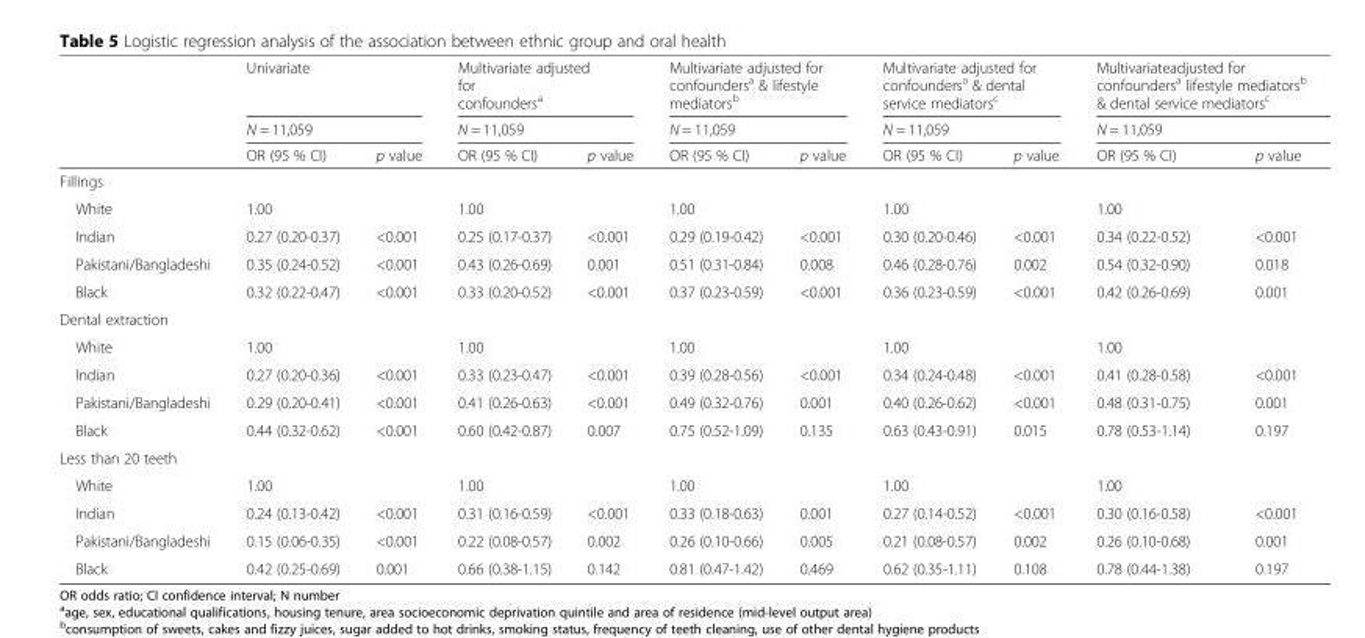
<table><thead><tr><td rowspan="3"></td><td rowspan="2" colspan="2">Univariate N = 11,059</td><td rowspan="2" colspan="2">Multivariate adjusted for confounders<sup>a</sup> N = 11,059</td><td rowspan="2" colspan="2">Multivariate adjusted for confounders<sup>a</sup> &amp; lifestyle mediators<sup>b</sup> N = 11,059</td><td rowspan="2" colspan="2">Multivariate adjusted for confounders<sup>a</sup> &amp; dental service mediators<sup>c</sup> N = 11,059</td><td rowspan="2" colspan="2">Multivariateadjusted for confounders<sup>a</sup> lifestyle mediators<sup>b</sup> &amp; dental service mediators<sup>c</sup> N = 11,059</td></tr><tr></tr><tr><td>OR (95 % CI)</td><td>p value</td><td>OR (95 % CI)</td><td>p value</td><td>OR (95 % CI)</td><td>p value</td><td>OR (95 % CI)</td><td>p value</td><td>OR (95 % CI)</td><td>p value</td></tr></thead><tbody><tr><td colspan="11">Fillings</td></tr><tr><td>White</td><td>1.00</td><td></td><td>1.00</td><td></td><td>1.00</td><td></td><td>1.00</td><td></td><td>1.00</td><td></td></tr><tr><td>Indian</td><td>0.27 (0.20-0.37)</td><td>&lt;0.001</td><td>0.25 (0.17-0.37)</td><td>&lt;0.001</td><td>0.29 (0.19-0.42)</td><td>&lt;0.001</td><td>0.30 (0.20-0.46)</td><td>&lt;0.001</td><td>0.34 (0.22-0.52)</td><td>&lt;0.001</td></tr><tr><td>Pakistani/Bangladeshi</td><td>0.35 (0.24-0.52)</td><td>&lt;0.001</td><td>0.43 (0.26-0.69)</td><td>0.001</td><td>0.51 (0.31-0.84)</td><td>0.008</td><td>0.46 (0.28-0.76)</td><td>0.002</td><td>0.54 (0.32-0.90)</td><td>0.018</td></tr><tr><td>Black</td><td>0.32 (0.22-0.47)</td><td>&lt;0.001</td><td>0.33 (0.20-0.52)</td><td>&lt;0.001</td><td>0.37 (0.23-0.59)</td><td>&lt;0.001</td><td>0.36 (0.23-0.59)</td><td>&lt;0.001</td><td>0.42 (0.26-0.69)</td><td>0.001</td></tr><tr><td colspan="11">Dental extraction</td></tr><tr><td>White</td><td>1.00</td><td></td><td>1.00</td><td></td><td>1.00</td><td></td><td>1.00</td><td></td><td>1.00</td><td></td></tr><tr><td>Indian</td><td>0.27 (0.20-0.36)</td><td>&lt;0.001</td><td>0.33 (0.23-0.47)</td><td>&lt;0.001</td><td>0.39 (0.28-0.56)</td><td>&lt;0.001</td><td>0.34 (0.24-0.48)</td><td>&lt;0.001</td><td>0.41 (0.28-0.58)</td><td>&lt;0.001</td></tr><tr><td>Pakistani/Bangladeshi</td><td>0.29 (0.20-0.41)</td><td>&lt;0.001</td><td>0.41 (0.26-0.63)</td><td>&lt;0.001</td><td>0.49 (0.32-0.76)</td><td>0.001</td><td>0.40 (0.26-0.62)</td><td>&lt;0.001</td><td>0.48 (0.31-0.75)</td><td>0.001</td></tr><tr><td>Black</td><td>0.44 (0.32-0.62)</td><td>&lt;0.001</td><td>0.60 (0.42-0.87)</td><td>0.007</td><td>0.75 (0.52-1.09)</td><td>0.135</td><td>0.63 (0.43-0.91)</td><td>0.015</td><td>0.78 (0.53-1.14)</td><td>0.197</td></tr><tr><td colspan="11">Less than 20 teeth</td></tr><tr><td>White</td><td>1.00</td><td></td><td>1.00</td><td></td><td>1.00</td><td></td><td>1.00</td><td></td><td>1.00</td><td></td></tr><tr><td>Indian</td><td>0.24 (0.13-0.42)</td><td>&lt;0.001</td><td>0.31 (0.16-0.59)</td><td>&lt;0.001</td><td>0.33 (0.18-0.63)</td><td>0.001</td><td>0.27 (0.14-0.52)</td><td>&lt;0.001</td><td>0.30 (0.16-0.58)</td><td>&lt;0.001</td></tr><tr><td>Pakistani/Bangladeshi</td><td>0.15 (0.06-0.35)</td><td>&lt;0.001</td><td>0.22 (0.08-0.57)</td><td>0.002</td><td>0.26 (0.10-0.66)</td><td>0.005</td><td>0.21 (0.08-0.57)</td><td>0.002</td><td>0.26 (0.10-0.68)</td><td>0.001</td></tr><tr><td>Black</td><td>0.42 (0.25-0.69)</td><td>0.001</td><td>0.66 (0.38-1.15)</td><td>0.142</td><td>0.81 (0.47-1.42)</td><td>0.469</td><td>0.62 (0.35-1.11)</td><td>0.108</td><td>0.78 (0.44-1.38)</td><td>0.197</td></tr></tbody></table>